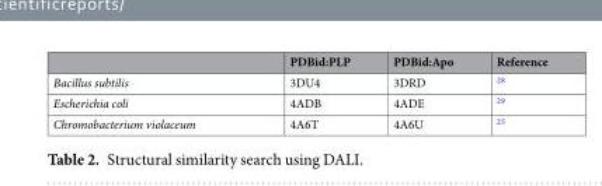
<table><thead><tr><td></td><td>PDBid:PLP</td><td>PDBid:Apo</td><td>Reference</td></tr></thead><tbody><tr><td>Bacillus subtilis</td><td>3DU4</td><td>3DRD</td><td><sup>28</sup></td></tr><tr><td>Escherichia coli</td><td>4ADB</td><td>4ADE</td><td><sup>29</sup></td></tr><tr><td>Chromobacterium violaceum</td><td>4A6T</td><td>4A6U</td><td><sup>25</sup></td></tr></tbody></table>